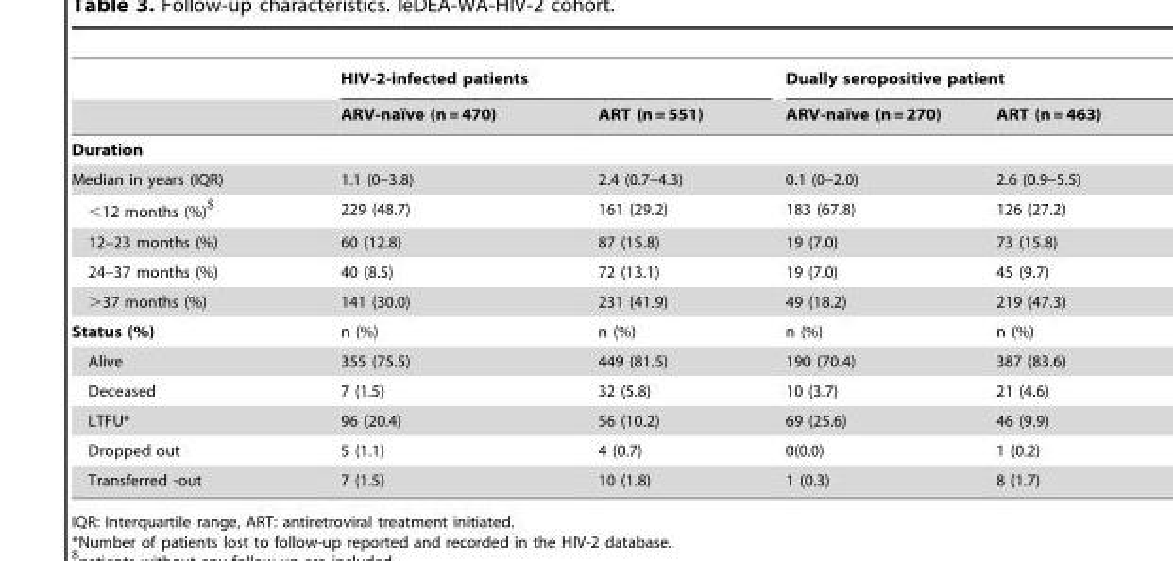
<table><thead><tr><td rowspan="2"></td><td colspan="2">HIV-2-infected patients</td><td colspan="2">Dually seropositive patient</td></tr><tr><td>ARV-naı¨ve (n = 470)</td><td>ART (n = 551)</td><td>ARV-naı¨ve (n = 270)</td><td>ART (n = 463)</td></tr></thead><tbody><tr><td colspan="5">Duration</td></tr><tr><td>Median in years (IQR)</td><td>1.1 (0–3.8)</td><td>2.4 (0.7–4.3)</td><td>0.1 (0–2.0)</td><td>2.6 (0.9–5.5)</td></tr><tr><td>&lt;12 months (%)$</td><td>229 (48.7)</td><td>161 (29.2)</td><td>183 (67.8)</td><td>126 (27.2)</td></tr><tr><td>12–23 months (%)</td><td>60 (12.8)</td><td>87 (15.8)</td><td>19 (7.0)</td><td>73 (15.8)</td></tr><tr><td>24–37 months (%)</td><td>40 (8.5)</td><td>72 (13.1)</td><td>19 (7.0)</td><td>45 (9.7)</td></tr><tr><td>&gt;37 months (%)</td><td>141 (30.0)</td><td>231 (41.9)</td><td>49 (18.2)</td><td>219 (47.3)</td></tr><tr><td>Status (%)</td><td>n (%)</td><td>n (%)</td><td>n (%)</td><td>n (%)</td></tr><tr><td>Alive</td><td>355 (75.5)</td><td>449 (81.5)</td><td>190 (70.4)</td><td>387 (83.6)</td></tr><tr><td>Deceased</td><td>7 (1.5)</td><td>32 (5.8)</td><td>10 (3.7)</td><td>21 (4.6)</td></tr><tr><td>LTFU*</td><td>96 (20.4)</td><td>56 (10.2)</td><td>69 (25.6)</td><td>46 (9.9)</td></tr><tr><td>Dropped out</td><td>5 (1.1)</td><td>4 (0.7)</td><td>0(0.0)</td><td>1 (0.2)</td></tr><tr><td>Transferred -out</td><td>7 (1.5)</td><td>10 (1.8)</td><td>1 (0.3)</td><td>8 (1.7)</td></tr></tbody></table>